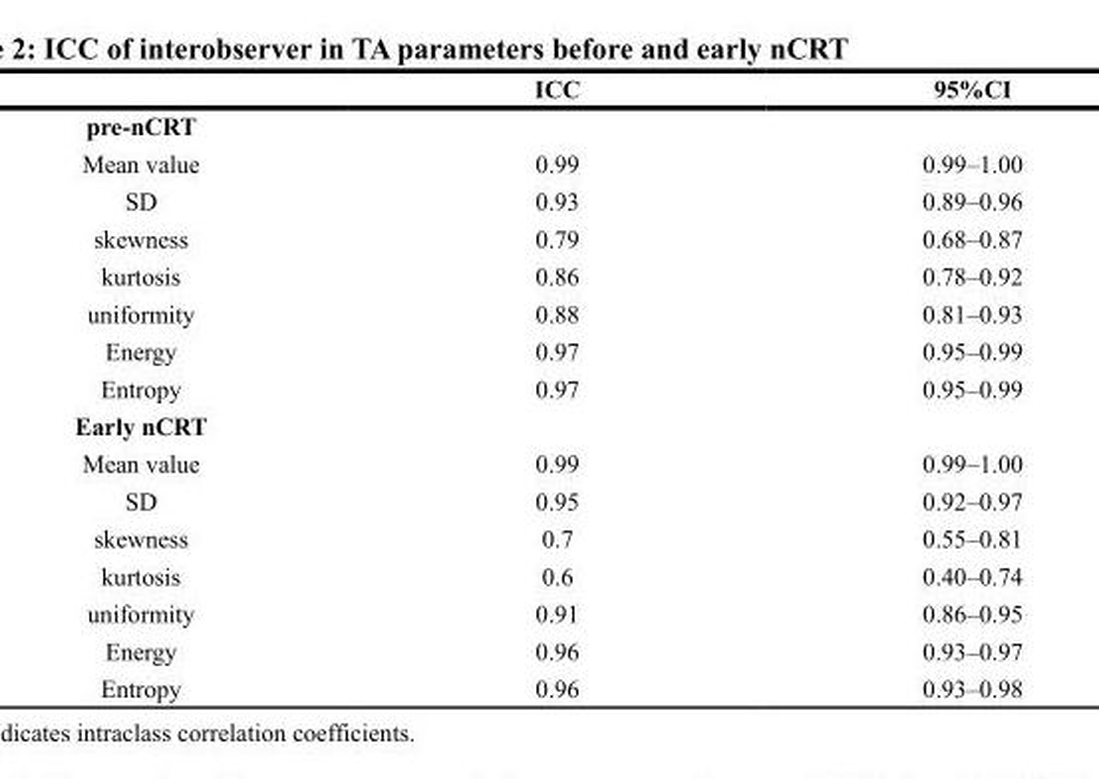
<table><thead><tr><td></td><td>ICC</td><td>95%CI</td></tr></thead><tbody><tr><td colspan="3">pre-nCRT</td></tr><tr><td>Mean value</td><td>0.99</td><td>0.99–1.00</td></tr><tr><td>SD</td><td>0.93</td><td>0.89–0.96</td></tr><tr><td>skewness</td><td>0.79</td><td>0.68–0.87</td></tr><tr><td>kurtosis</td><td>0.86</td><td>0.78–0.92</td></tr><tr><td>uniformity</td><td>0.88</td><td>0.81–0.93</td></tr><tr><td>Energy</td><td>0.97</td><td>0.95–0.99</td></tr><tr><td>Entropy</td><td>0.97</td><td>0.95–0.99</td></tr><tr><td colspan="3">Early nCRT</td></tr><tr><td>Mean value</td><td>0.99</td><td>0.99–1.00</td></tr><tr><td>SD</td><td>0.95</td><td>0.92–0.97</td></tr><tr><td>skewness</td><td>0.7</td><td>0.55–0.81</td></tr><tr><td>kurtosis</td><td>0.6</td><td>0.40–0.74</td></tr><tr><td>uniformity</td><td>0.91</td><td>0.86–0.95</td></tr><tr><td>Energy</td><td>0.96</td><td>0.93–0.97</td></tr><tr><td>Entropy</td><td>0.96</td><td>0.93–0.98</td></tr></tbody></table>